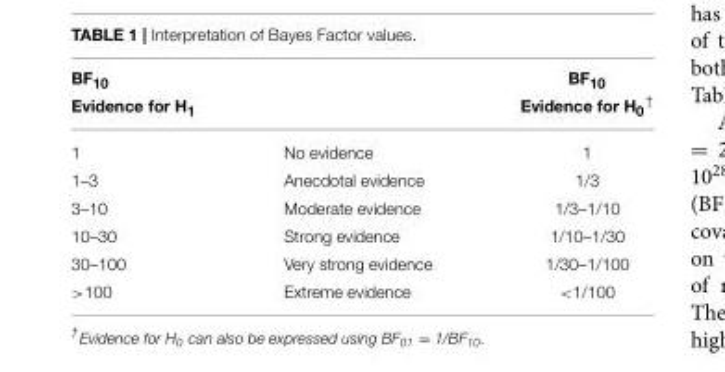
<table><thead><tr><td rowspan="2">BF<sub>10</sub> Evidence for H<sub>1</sub></td><td rowspan="2"></td><td rowspan="2">BF<sub>10</sub> Evidence for H<sub>0</sub><sup>†</sup></td></tr><tr></tr></thead><tbody><tr><td>1</td><td>No evidence</td><td>1</td></tr><tr><td>1–3</td><td>Anecdotal evidence</td><td>1/3</td></tr><tr><td>3–10</td><td>Moderate evidence</td><td>1/3–1/10</td></tr><tr><td>10–30</td><td>Strong evidence</td><td>1/10–1/30</td></tr><tr><td>30–100</td><td>Very strong evidence</td><td>1/30–1/100</td></tr><tr><td>&gt;100</td><td>Extreme evidence</td><td>&lt;1/100</td></tr></tbody></table>